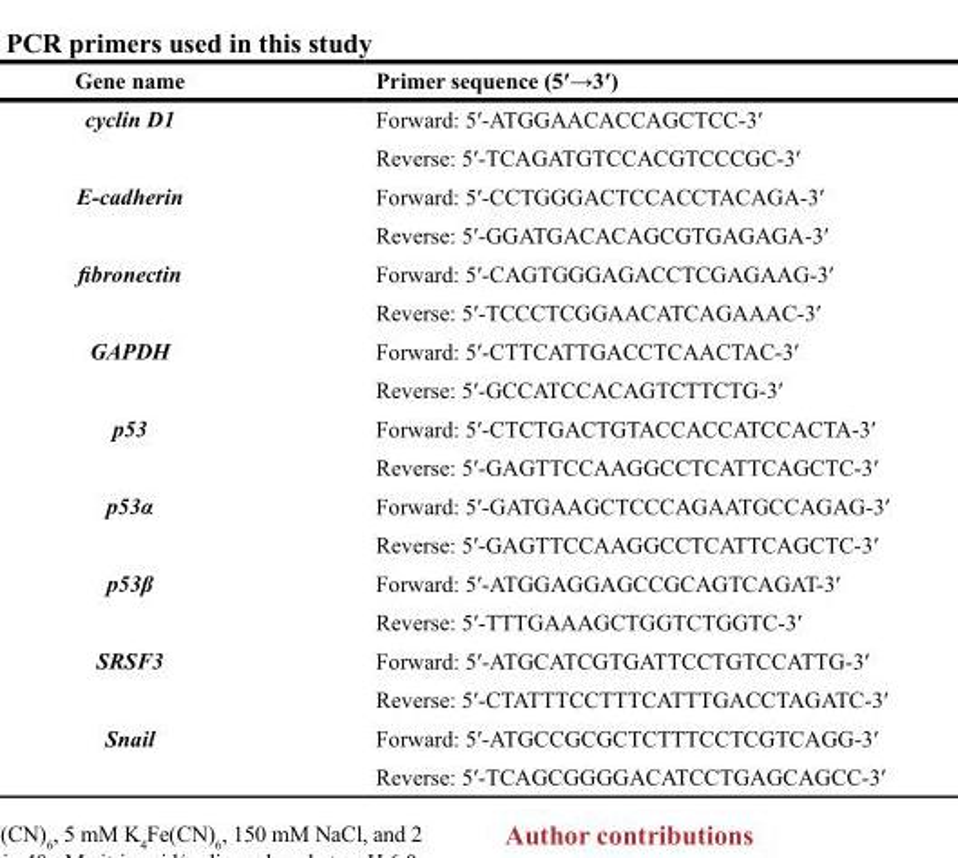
<table><thead><tr><td>Gene name</td><td>Primer sequence (5′→3′)</td></tr></thead><tbody><tr><td rowspan="2">cyclin D1</td><td>Forward: 5′-ATGGAACACCAGCTCC-3′</td></tr><tr><td>Reverse: 5′-TCAGATGTCCACGTCCCGC-3′</td></tr><tr><td rowspan="2">E-cadherin</td><td>Forward: 5′-CCTGGGACTCCACCTACAGA-3′</td></tr><tr><td>Reverse: 5′-GGATGACACAGCGTGAGAGA-3′</td></tr><tr><td rowspan="2">fibronectin</td><td>Forward: 5′-CAGTGGGAGACCTCGAGAAG-3′</td></tr><tr><td>Reverse: 5′-TCCCTCGGAACATCAGAAAC-3′</td></tr><tr><td rowspan="2">GAPDH</td><td>Forward: 5′-CTTCATTGACCTCAACTAC-3′</td></tr><tr><td>Reverse: 5′-GCCATCCACAGTCTTCTG-3′</td></tr><tr><td rowspan="2">p53</td><td>Forward: 5′-CTCTGACTGTACCACCATCCACTA-3′</td></tr><tr><td>Reverse: 5′-GAGTTCCAAGGCCTCATTCAGCTC-3′</td></tr><tr><td rowspan="2">p53α</td><td>Forward: 5′-GATGAAGCTCCCAGAATGCCAGAG-3′</td></tr><tr><td>Reverse: 5′-GAGTTCCAAGGCCTCATTCAGCTC-3′</td></tr><tr><td rowspan="2">p53β</td><td>Forward: 5′-ATGGAGGAGCCGCAGTCAGAT-3′</td></tr><tr><td>Reverse: 5′-TTTGAAAGCTGGTCTGGTC-3′</td></tr><tr><td rowspan="2">SRSF3</td><td>Forward: 5′-ATGCATCGTGATTCCTGTCCATTG-3′</td></tr><tr><td>Reverse: 5′-CTATTTCCTTTCATTTGACCTAGATC-3′</td></tr><tr><td rowspan="2">Snail</td><td>Forward: 5′-ATGCCGCGCTCTTTCCTCGTCAGG-3′</td></tr><tr><td>Reverse: 5′-TCAGCGGGGACATCCTGAGCAGCC-3′</td></tr></tbody></table>